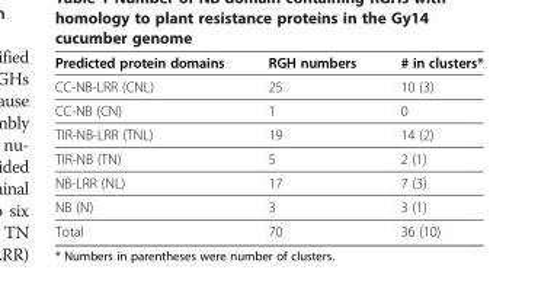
<table><thead><tr><td>Predicted protein domains</td><td>RGH numbers</td><td># in clusters*</td></tr></thead><tbody><tr><td>CC-NB-LRR (CNL)</td><td>25</td><td>10 (3)</td></tr><tr><td>CC-NB (CN)</td><td>1</td><td>0</td></tr><tr><td>TIR-NB-LRR (TNL)</td><td>19</td><td>14 (2)</td></tr><tr><td>TIR-NB (TN)</td><td>5</td><td>2 (1)</td></tr><tr><td>NB-LRR (NL)</td><td>17</td><td>7 (3)</td></tr><tr><td>NB (N)</td><td>3</td><td>3 (1)</td></tr><tr><td>Total</td><td>70</td><td>36 (10)</td></tr></tbody></table>